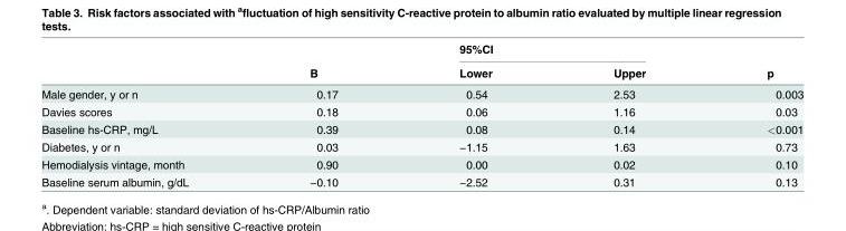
<table><thead><tr><td rowspan="2"></td><td rowspan="2">B</td><td colspan="2">95%CI</td><td rowspan="2">p</td></tr><tr><td>Lower</td><td>Upper</td></tr></thead><tbody><tr><td>Male gender, y or n</td><td>0.17</td><td>0.54</td><td>2.53</td><td>0.003</td></tr><tr><td>Davies scores</td><td>0.18</td><td>0.06</td><td>1.16</td><td>0.03</td></tr><tr><td>Baseline hs-CRP, mg/L</td><td>0.39</td><td>0.08</td><td>0.14</td><td>&lt;0.001</td></tr><tr><td>Diabetes, y or n</td><td>0.03</td><td>−1.15</td><td>1.63</td><td>0.73</td></tr><tr><td>Hemodialysis vintage, month</td><td>0.90</td><td>0.00</td><td>0.02</td><td>0.10</td></tr><tr><td>Baseline serum albumin, g/dL</td><td>−0.10</td><td>−2.52</td><td>0.31</td><td>0.13</td></tr></tbody></table>